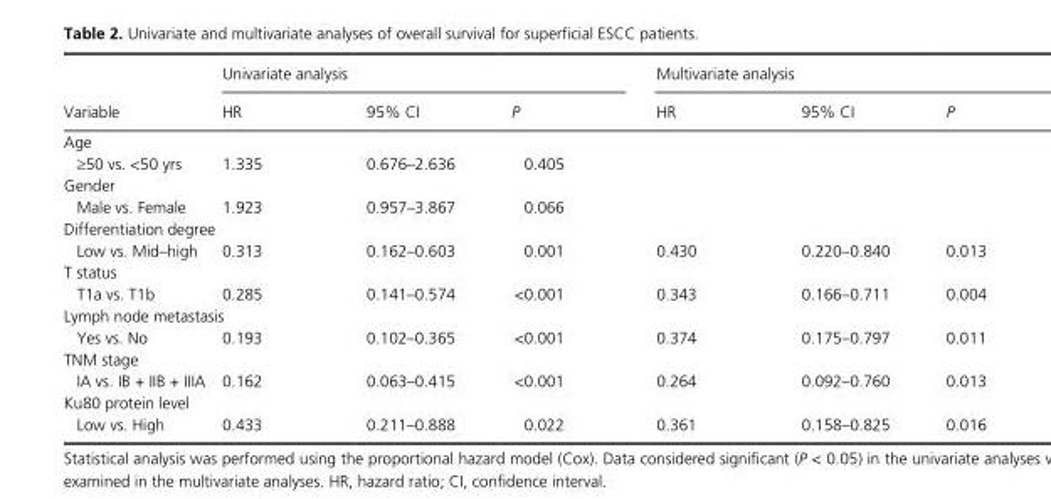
<table><thead><tr><td rowspan="2">Variable</td><td colspan="3">Univariate analysis</td><td colspan="3">Multivariate analysis</td></tr><tr><td>HR</td><td>95% CI</td><td>P</td><td>HR</td><td>95% CI</td><td>P</td></tr></thead><tbody><tr><td colspan="7">Age</td></tr><tr><td>≥50 vs. &lt;50 yrs</td><td>1.335</td><td>0.676–2.636</td><td>0.405</td><td></td><td></td><td></td></tr><tr><td colspan="7">Gender</td></tr><tr><td>Male vs. Female</td><td>1.923</td><td>0.957–3.867</td><td>0.066</td><td></td><td></td><td></td></tr><tr><td colspan="7">Differentiation degree</td></tr><tr><td>Low vs. Mid–high</td><td>0.313</td><td>0.162–0.603</td><td>0.001</td><td>0.430</td><td>0.220–0.840</td><td>0.013</td></tr><tr><td colspan="7">T status</td></tr><tr><td>T1a vs. T1b</td><td>0.285</td><td>0.141–0.574</td><td>&lt;0.001</td><td>0.343</td><td>0.166–0.711</td><td>0.004</td></tr><tr><td colspan="7">Lymph node metastasis</td></tr><tr><td>Yes vs. No</td><td>0.193</td><td>0.102–0.365</td><td>&lt;0.001</td><td>0.374</td><td>0.175–0.797</td><td>0.011</td></tr><tr><td colspan="7">TNM stage</td></tr><tr><td>IA vs. IB + IIB + IIIA</td><td>0.162</td><td>0.063–0.415</td><td>&lt;0.001</td><td>0.264</td><td>0.092–0.760</td><td>0.013</td></tr><tr><td colspan="7">Ku80 protein level</td></tr><tr><td>Low vs. High</td><td>0.433</td><td>0.211–0.888</td><td>0.022</td><td>0.361</td><td>0.158–0.825</td><td>0.016</td></tr></tbody></table>